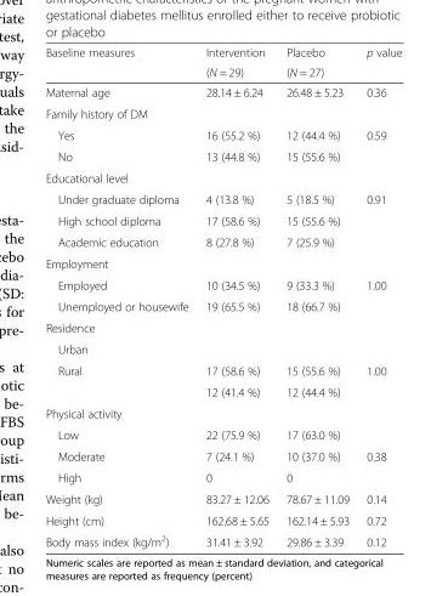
<table><thead><tr><td rowspan="2">Baseline measures</td><td rowspan="2">Intervention (N = 29)</td><td rowspan="2">Placebo (N = 27)</td><td rowspan="2">p value</td></tr><tr></tr></thead><tbody><tr><td>Maternal age</td><td>28.14 ± 6.24</td><td>26.48 ± 5.23</td><td>0.36</td></tr><tr><td colspan="4">Family history of DM</td></tr><tr><td>Yes</td><td>16 (55.2 %)</td><td>12 (44.4 %)</td><td rowspan="2">0.59</td></tr><tr><td>No</td><td>13 (44.8 %)</td><td>15 (55.6 %)</td></tr><tr><td colspan="4">Educational level</td></tr><tr><td>Under graduate diploma</td><td>4 (13.8 %)</td><td>5 (18.5 %)</td><td rowspan="3">0.91</td></tr><tr><td>High school diploma</td><td>17 (58.6 %)</td><td>15 (55.6 %)</td></tr><tr><td>Academic education</td><td>8 (27.8 %)</td><td>7 (25.9 %)</td></tr><tr><td colspan="4">Employment</td></tr><tr><td>Employed</td><td>10 (34.5 %)</td><td>9 (33.3 %)</td><td rowspan="2">1.00</td></tr><tr><td>Unemployed or housewife</td><td>19 (65.5 %)</td><td>18 (66.7 %)</td></tr><tr><td colspan="4">Residence</td></tr><tr><td colspan="4">Urban</td></tr><tr><td rowspan="2">Rural</td><td>17 (58.6 %)</td><td>15 (55.6 %)</td><td rowspan="2">1.00</td></tr><tr><td>12 (41.4 %)</td><td>12 (44.4 %)</td></tr><tr><td colspan="4">Physical activity</td></tr><tr><td>Low</td><td>22 (75.9 %)</td><td>17 (63.0 %)</td><td></td></tr><tr><td>Moderate</td><td>7 (24.1 %)</td><td>10 (37.0 %)</td><td>0.38</td></tr><tr><td>High</td><td>0</td><td>0</td><td></td></tr><tr><td>Weight (kg)</td><td>83.27 ± 12.06</td><td>78.67 ± 11.09</td><td>0.14</td></tr><tr><td>Height (cm)</td><td>162.68 ± 5.65</td><td>162.14 ± 5.93</td><td>0.72</td></tr><tr><td>Body mass index (kg/m<sup>2</sup>)</td><td>31.41 ± 3.92</td><td>29.86 ± 3.39</td><td>0.12</td></tr></tbody></table>